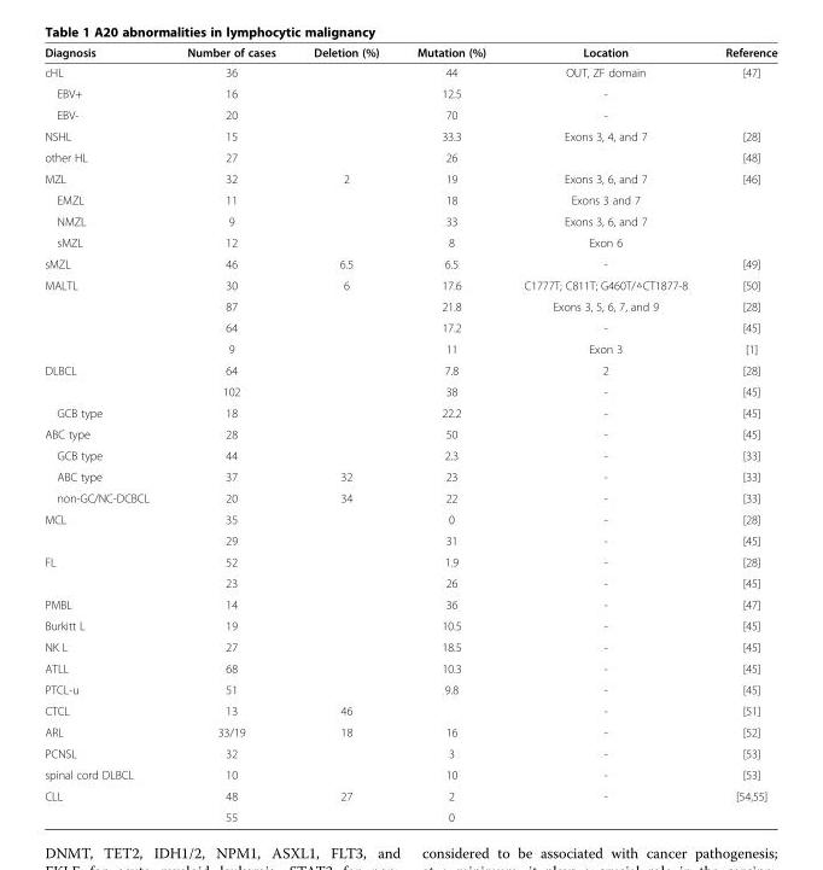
<table><thead><tr><td>Diagnosis</td><td>Number of cases</td><td>Deletion (%)</td><td>Mutation (%)</td><td>Location</td><td>Reference</td></tr></thead><tbody><tr><td>cHL</td><td>36</td><td></td><td>44</td><td>OUT, ZF domain</td><td>[47]</td></tr><tr><td>EBV+</td><td>16</td><td></td><td>12.5</td><td>-</td><td></td></tr><tr><td>EBV-</td><td>20</td><td></td><td>70</td><td>-</td><td></td></tr><tr><td>NSHL</td><td>15</td><td></td><td>33.3</td><td>Exons 3, 4, and 7</td><td>[28]</td></tr><tr><td>other HL</td><td>27</td><td></td><td>26</td><td></td><td>[48]</td></tr><tr><td>MZL</td><td>32</td><td>2</td><td>19</td><td>Exons 3, 6, and 7</td><td rowspan="4">[46]</td></tr><tr><td>EMZL</td><td>11</td><td></td><td>18</td><td>Exons 3 and 7</td></tr><tr><td>NMZL</td><td>9</td><td></td><td>33</td><td>Exons 3, 6, and 7</td></tr><tr><td>sMZL</td><td>12</td><td></td><td>8</td><td>Exon 6</td></tr><tr><td>sMZL</td><td>46</td><td>6.5</td><td>6.5</td><td>-</td><td>[49]</td></tr><tr><td rowspan="4">MALTL</td><td>30</td><td>6</td><td>17.6</td><td>C1777T; C811T; G460T/△CT1877-8</td><td>[50]</td></tr><tr><td>87</td><td></td><td>21.8</td><td>Exons 3, 5, 6, 7, and 9</td><td>[28]</td></tr><tr><td>64</td><td></td><td>17.2</td><td>-</td><td>[45]</td></tr><tr><td>9</td><td></td><td>11</td><td>Exon 3</td><td>[1]</td></tr><tr><td rowspan="2">DLBCL</td><td>64</td><td></td><td>7.8</td><td>2</td><td>[28]</td></tr><tr><td>102</td><td></td><td>38</td><td>-</td><td>[45]</td></tr><tr><td>GCB type</td><td>18</td><td></td><td>22.2</td><td>-</td><td>[45]</td></tr><tr><td>ABC type</td><td>28</td><td></td><td>50</td><td>-</td><td>[45]</td></tr><tr><td>GCB type</td><td>44</td><td></td><td>2.3</td><td>-</td><td>[33]</td></tr><tr><td>ABC type</td><td>37</td><td>32</td><td>23</td><td>-</td><td>[33]</td></tr><tr><td>non-GC/NC-DCBCL</td><td>20</td><td>34</td><td>22</td><td>-</td><td>[33]</td></tr><tr><td rowspan="2">MCL</td><td>35</td><td></td><td>0</td><td>-</td><td>[28]</td></tr><tr><td>29</td><td></td><td>31</td><td>-</td><td>[45]</td></tr><tr><td rowspan="2">FL</td><td>52</td><td></td><td>1.9</td><td>-</td><td>[28]</td></tr><tr><td>23</td><td></td><td>26</td><td>-</td><td>[45]</td></tr><tr><td>PMBL</td><td>14</td><td></td><td>36</td><td>-</td><td>[47]</td></tr><tr><td>Burkitt L</td><td>19</td><td></td><td>10.5</td><td>-</td><td>[45]</td></tr><tr><td>NK L</td><td>27</td><td></td><td>18.5</td><td>-</td><td>[45]</td></tr><tr><td>ATLL</td><td>68</td><td></td><td>10.3</td><td>-</td><td>[45]</td></tr><tr><td>PTCL-u</td><td>51</td><td></td><td>9.8</td><td>-</td><td>[45]</td></tr><tr><td>CTCL</td><td>13</td><td>46</td><td></td><td>-</td><td>[51]</td></tr><tr><td>ARL</td><td>33/19</td><td>18</td><td>16</td><td>-</td><td>[52]</td></tr><tr><td>PCNSL</td><td>32</td><td></td><td>3</td><td>-</td><td>[53]</td></tr><tr><td>spinal cord DLBCL</td><td>10</td><td></td><td>10</td><td>-</td><td>[53]</td></tr><tr><td rowspan="2">CLL</td><td>48</td><td>27</td><td>2</td><td rowspan="2">-</td><td rowspan="2">[54,55]</td></tr><tr><td>55</td><td></td><td>0</td></tr></tbody></table>